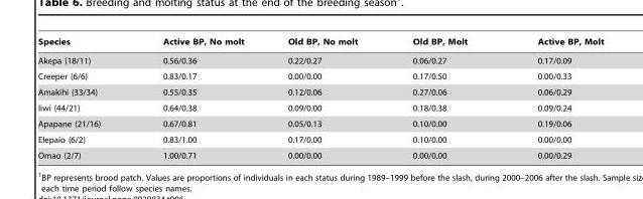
<table><thead><tr><td>Species</td><td>Active BP, No molt</td><td>Old BP, No molt</td><td>Old BP, Molt</td><td>Active BP, Molt</td></tr></thead><tbody><tr><td>Akepa (18/11)</td><td>0.56/0.36</td><td>0.22/0.27</td><td>0.06/0.27</td><td>0.17/0.09</td></tr><tr><td>Creeper (6/6)</td><td>0.83/0.17</td><td>0.00/0.00</td><td>0.17/0.50</td><td>0.00/0.33</td></tr><tr><td>Amakihi (33/34)</td><td>0.55/0.35</td><td>0.12/0.06</td><td>0.27/0.06</td><td>0.06/0.29</td></tr><tr><td>Iiwi (44/21)</td><td>0.64/0.38</td><td>0.09/0.00</td><td>0.18/0.38</td><td>0.09/0.24</td></tr><tr><td>Apapane (21/16)</td><td>0.67/0.81</td><td>0.05/0.13</td><td>0.10/0.00</td><td>0.19/0.06</td></tr><tr><td>Elepaio (6/2)</td><td>0.83/1.00</td><td>0.17/0.00</td><td>0.10/0.00</td><td>0.00/0.00</td></tr><tr><td>Omao (2/7)</td><td>1.00/0.71</td><td>0.00/0.00</td><td>0.00/0.00</td><td>0.00/0.29</td></tr></tbody></table>